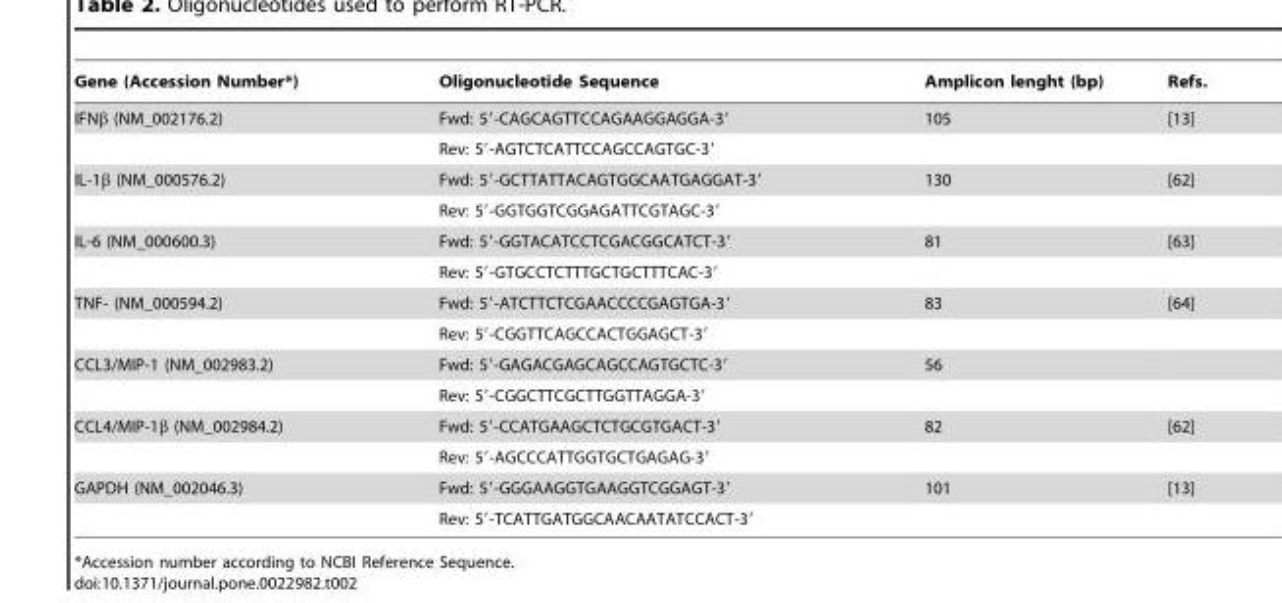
<table><thead><tr><td>Gene (Accession Number*)</td><td>Oligonucleotide Sequence</td><td>Amplicon lenght (bp)</td><td>Refs.</td></tr></thead><tbody><tr><td rowspan="2">IFNβ (NM_002176.2)</td><td>Fwd: 5′-CAGCAGTTCCAGAAGGAGGA-3′</td><td>105</td><td>[13]</td></tr><tr><td>Rev: 5′-AGTCTCATTCCAGCCAGTGC-3′</td><td></td><td></td></tr><tr><td rowspan="2">IL-1β (NM_000576.2)</td><td>Fwd: 5′-GCTTATTACAGTGGCAATGAGGAT-3′</td><td>130</td><td>[62]</td></tr><tr><td>Rev: 5′-GGTGGTCGGAGATTCGTAGC-3′</td><td></td><td></td></tr><tr><td rowspan="2">IL-6 (NM_000600.3)</td><td>Fwd: 5′-GGTACATCCTCGACGGCATCT-3′</td><td>81</td><td>[63]</td></tr><tr><td>Rev: 5′-GTGCCTCTTTGCTGCTTTCAC-3′</td><td></td><td></td></tr><tr><td rowspan="2">TNF- (NM_000594.2)</td><td>Fwd: 5′-ATCTTCTCGAACCCCGAGTGA-3′</td><td>83</td><td>[64]</td></tr><tr><td>Rev: 5′-CGGTTCAGCCACTGGAGCT-3′</td><td></td><td></td></tr><tr><td rowspan="2">CCL3/MIP-1 (NM_002983.2)</td><td>Fwd: 5′-GAGACGAGCAGCCAGTGCTC-3′</td><td>56</td><td></td></tr><tr><td>Rev: 5′-CGGCTTCGCTTGGTTAGGA-3′</td><td></td><td></td></tr><tr><td rowspan="2">CCL4/MIP-1β (NM_002984.2)</td><td>Fwd: 5′-CCATGAAGCTCTGCGTGACT-3′</td><td>82</td><td>[62]</td></tr><tr><td>Rev: 5′-AGCCCATTGGTGCTGAGAG-3′</td><td></td><td></td></tr><tr><td rowspan="2">GAPDH (NM_002046.3)</td><td>Fwd: 5′-GGGAAGGTGAAGGTCGGAGT-3′</td><td>101</td><td>[13]</td></tr><tr><td>Rev: 5′-TCATTGATGGCAACAATATCCACT-3′</td><td></td><td></td></tr></tbody></table>